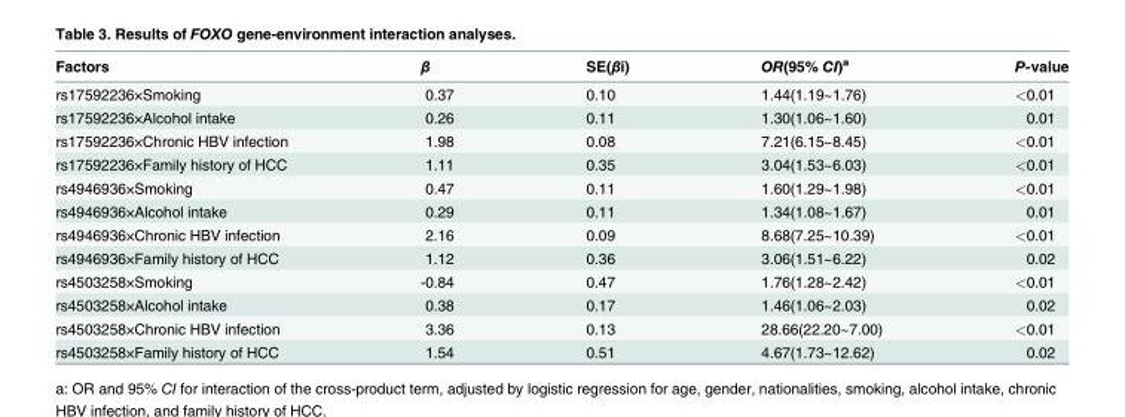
<table><thead><tr><td>Factors</td><td>β</td><td>SE(βi)</td><td>OR(95% CI)<sup>a</sup></td><td>P-value</td></tr></thead><tbody><tr><td>rs17592236×Smoking</td><td>0.37</td><td>0.10</td><td>1.44(1.19~1.76)</td><td>&lt;0.01</td></tr><tr><td>rs17592236×Alcohol intake</td><td>0.26</td><td>0.11</td><td>1.30(1.06~1.60)</td><td>0.01</td></tr><tr><td>rs17592236×Chronic HBV infection</td><td>1.98</td><td>0.08</td><td>7.21(6.15~8.45)</td><td>&lt;0.01</td></tr><tr><td>rs17592236×Family history of HCC</td><td>1.11</td><td>0.35</td><td>3.04(1.53~6.03)</td><td>&lt;0.01</td></tr><tr><td>rs4946936×Smoking</td><td>0.47</td><td>0.11</td><td>1.60(1.29~1.98)</td><td>&lt;0.01</td></tr><tr><td>rs4946936×Alcohol intake</td><td>0.29</td><td>0.11</td><td>1.34(1.08~1.67)</td><td>0.01</td></tr><tr><td>rs4946936×Chronic HBV infection</td><td>2.16</td><td>0.09</td><td>8.68(7.25~10.39)</td><td>&lt;0.01</td></tr><tr><td>rs4946936×Family history of HCC</td><td>1.12</td><td>0.36</td><td>3.06(1.51~6.22)</td><td>0.02</td></tr><tr><td>rs4503258×Smoking</td><td>-0.84</td><td>0.47</td><td>1.76(1.28~2.42)</td><td>&lt;0.01</td></tr><tr><td>rs4503258×Alcohol intake</td><td>0.38</td><td>0.17</td><td>1.46(1.06~2.03)</td><td>0.02</td></tr><tr><td>rs4503258×Chronic HBV infection</td><td>3.36</td><td>0.13</td><td>28.66(22.20~7.00)</td><td>&lt;0.01</td></tr><tr><td>rs4503258×Family history of HCC</td><td>1.54</td><td>0.51</td><td>4.67(1.73~12.62)</td><td>0.02</td></tr></tbody></table>